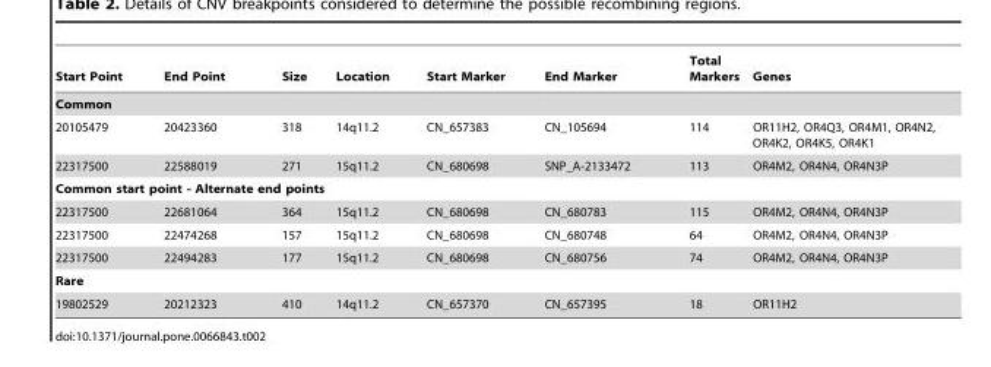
<table><thead><tr><td>Start Point</td><td>End Point</td><td>Size</td><td>Location</td><td>Start Marker</td><td>End Marker</td><td>Total Markers</td><td>Genes</td></tr></thead><tbody><tr><td colspan="8">Common</td></tr><tr><td>20105479</td><td>20423360</td><td>318</td><td>14q11.2</td><td>CN_657383</td><td>CN_105694</td><td>114</td><td>OR11H2, OR4Q3, OR4M1, OR4N2, OR4K2, OR4K5, OR4K1</td></tr><tr><td>22317500</td><td>22588019</td><td>271</td><td>15q11.2</td><td>CN_680698</td><td>SNP_A-2133472</td><td>113</td><td>OR4M2, OR4N4, OR4N3P</td></tr><tr><td colspan="8">Common start point - Alternate end points</td></tr><tr><td>22317500</td><td>22681064</td><td>364</td><td>15q11.2</td><td>CN_680698</td><td>CN_680783</td><td>115</td><td>OR4M2, OR4N4, OR4N3P</td></tr><tr><td>22317500</td><td>22474268</td><td>157</td><td>15q11.2</td><td>CN_680698</td><td>CN_680748</td><td>64</td><td>OR4M2, OR4N4, OR4N3P</td></tr><tr><td>22317500</td><td>22494283</td><td>177</td><td>15q11.2</td><td>CN_680698</td><td>CN_680756</td><td>74</td><td>OR4M2, OR4N4, OR4N3P</td></tr><tr><td colspan="8">Rare</td></tr><tr><td>19802529</td><td>20212323</td><td>410</td><td>14q11.2</td><td>CN_657370</td><td>CN_657395</td><td>18</td><td>OR11H2</td></tr></tbody></table>